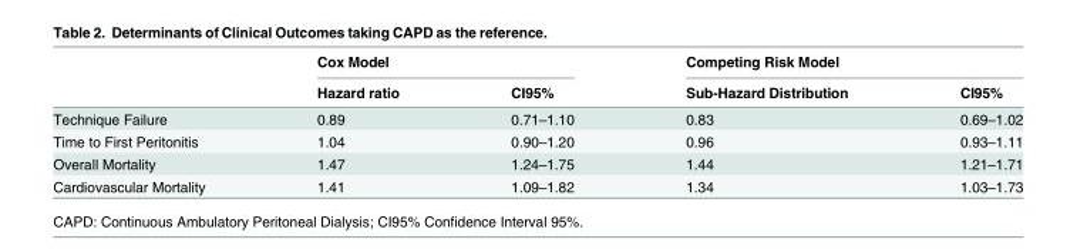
<table><thead><tr><td rowspan="2"></td><td colspan="2">Cox Model</td><td colspan="2">Competing Risk Model</td></tr><tr><td>Hazard ratio</td><td>CI95%</td><td>Sub-Hazard Distribution</td><td>CI95%</td></tr></thead><tbody><tr><td>Technique Failure</td><td>0.89</td><td>0.71–1.10</td><td>0.83</td><td>0.69–1.02</td></tr><tr><td>Time to First Peritonitis</td><td>1.04</td><td>0.90–1.20</td><td>0.96</td><td>0.93–1.11</td></tr><tr><td>Overall Mortality</td><td>1.47</td><td>1.24–1.75</td><td>1.44</td><td>1.21–1.71</td></tr><tr><td>Cardiovascular Mortality</td><td>1.41</td><td>1.09–1.82</td><td>1.34</td><td>1.03–1.73</td></tr></tbody></table>